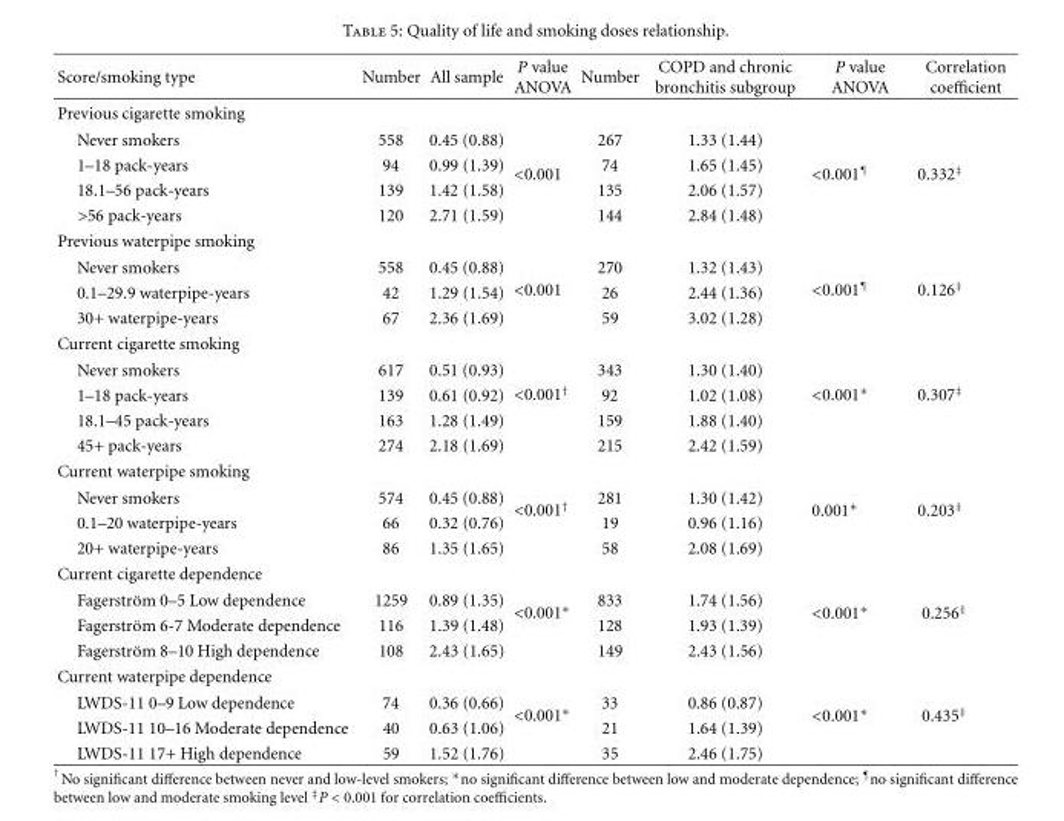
<table><thead><tr><td>Score/smoking type</td><td>Number</td><td>All sample</td><td>P value ANOVA</td><td>Number</td><td>COPD and chronic bronchitis subgroup</td><td>P value ANOVA</td><td>Correlation coefficient</td></tr></thead><tbody><tr><td colspan="8">Previous cigarette smoking</td></tr><tr><td>Never smokers</td><td>558</td><td>0.45 (0.88)</td><td rowspan="4">&lt;0.001</td><td>267</td><td>1.33 (1.44)</td><td rowspan="4">&lt;0.001<sup>¶</sup></td><td rowspan="4">0.332<sup>‡</sup></td></tr><tr><td>1–18 pack-years</td><td>94</td><td>0.99 (1.39)</td><td>74</td><td>1.65 (1.45)</td></tr><tr><td>18.1–56 pack-years</td><td>139</td><td>1.42 (1.58)</td><td>135</td><td>2.06 (1.57)</td></tr><tr><td>&gt;56 pack-years</td><td>120</td><td>2.71 (1.59)</td><td>144</td><td>2.84 (1.48)</td></tr><tr><td colspan="8">Previous waterpipe smoking</td></tr><tr><td>Never smokers</td><td>558</td><td>0.45 (0.88)</td><td rowspan="3">&lt;0.001</td><td>270</td><td>1.32 (1.43)</td><td rowspan="3">&lt;0.001<sup>¶</sup></td><td rowspan="3">0.126<sup>‡</sup></td></tr><tr><td>0.1–29.9 waterpipe-years</td><td>42</td><td>1.29 (1.54)</td><td>26</td><td>2.44 (1.36)</td></tr><tr><td>30+ waterpipe-years</td><td>67</td><td>2.36 (1.69)</td><td>59</td><td>3.02 (1.28)</td></tr><tr><td colspan="8">Current cigarette smoking</td></tr><tr><td>Never smokers</td><td>617</td><td>0.51 (0.93)</td><td rowspan="4">&lt;0.001<sup>†</sup></td><td>343</td><td>1.30 (1.40)</td><td rowspan="4">&lt;0.001∗</td><td rowspan="4">0.307<sup>‡</sup></td></tr><tr><td>1–18 pack-years</td><td>139</td><td>0.61 (0.92)</td><td>92</td><td>1.02 (1.08)</td></tr><tr><td>18.1–45 pack-years</td><td>163</td><td>1.28 (1.49)</td><td>159</td><td>1.88 (1.40)</td></tr><tr><td>45+ pack-years</td><td>274</td><td>2.18 (1.69)</td><td>215</td><td>2.42 (1.59)</td></tr><tr><td colspan="8">Current waterpipe smoking</td></tr><tr><td>Never smokers</td><td>574</td><td>0.45 (0.88)</td><td rowspan="3">&lt;0.001<sup>†</sup></td><td>281</td><td>1.30 (1.42)</td><td rowspan="3">0.001∗</td><td rowspan="3">0.203<sup>‡</sup></td></tr><tr><td>0.1–20 waterpipe-years</td><td>66</td><td>0.32 (0.76)</td><td>19</td><td>0.96 (1.16)</td></tr><tr><td>20+ waterpipe-years</td><td>86</td><td>1.35 (1.65)</td><td>58</td><td>2.08 (1.69)</td></tr><tr><td colspan="8">Current cigarette dependence</td></tr><tr><td>Fagerstr¨om 0–5 Low dependence</td><td>1259</td><td>0.89 (1.35)</td><td rowspan="3">&lt;0.001∗</td><td>833</td><td>1.74 (1.56)</td><td rowspan="3">&lt;0.001∗</td><td rowspan="3">0.256<sup>‡</sup></td></tr><tr><td>Fagerstr¨om 6-7 Moderate dependence</td><td>116</td><td>1.39 (1.48)</td><td>128</td><td>1.93 (1.39)</td></tr><tr><td>Fagerstr¨om 8–10 High dependence</td><td>108</td><td>2.43 (1.65)</td><td>149</td><td>2.43 (1.56)</td></tr><tr><td colspan="8">Current waterpipe dependence</td></tr><tr><td>LWDS-11 0–9 Low dependence</td><td>74</td><td>0.36 (0.66)</td><td rowspan="3">&lt;0.001∗</td><td>33</td><td>0.86 (0.87)</td><td rowspan="3">&lt;0.001∗</td><td rowspan="3">0.435<sup>‡</sup></td></tr><tr><td>LWDS-11 10–16 Moderate dependence</td><td>40</td><td>0.63 (1.06)</td><td>21</td><td>1.64 (1.39)</td></tr><tr><td>LWDS-11 17+ High dependence</td><td>59</td><td>1.52 (1.76)</td><td>35</td><td>2.46 (1.75)</td></tr></tbody></table>